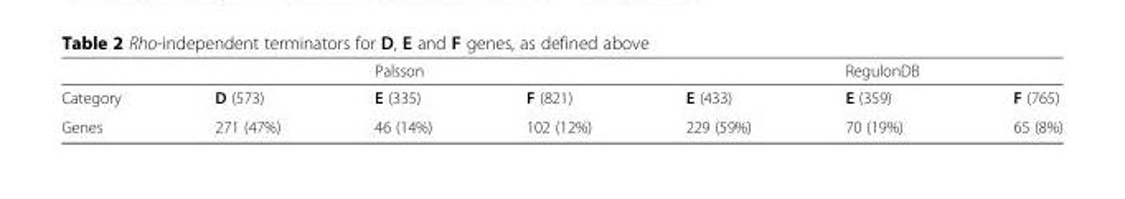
<table><thead><tr><td></td><td></td><td>Palsson</td><td></td><td></td><td>RegulonDB</td><td></td></tr></thead><tbody><tr><td>Category</td><td>D (573)</td><td>E (335)</td><td>F (821)</td><td>E (433)</td><td>E (359)</td><td>F (765)</td></tr><tr><td>Genes</td><td>271 (47%)</td><td>46 (14%)</td><td>102 (12%)</td><td>229 (59%)</td><td>70 (19%)</td><td>65 (8%)</td></tr></tbody></table>